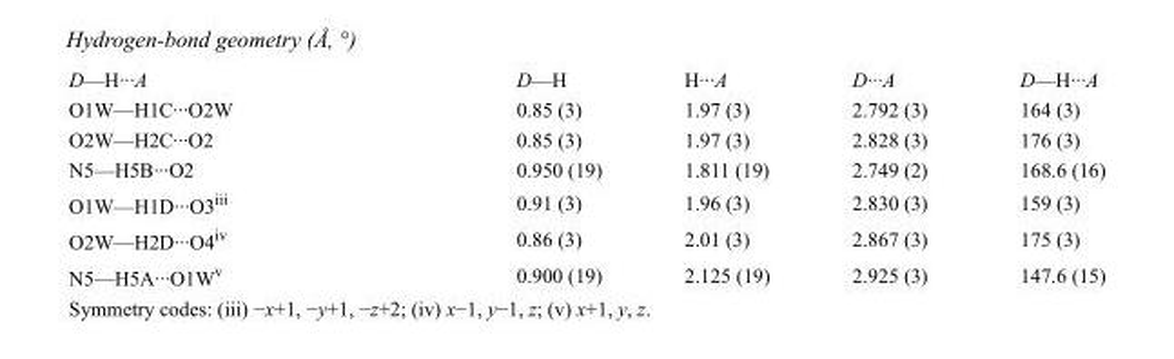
<table><tbody><tr><td>D—H···A</td><td>D—H</td><td>H···A</td><td>D···A</td><td>D—H···A</td></tr><tr><td>O1W—H1C···O2W</td><td>0.85 (3)</td><td>1.97 (3)</td><td>2.792 (3)</td><td>164 (3)</td></tr><tr><td>O2W—H2C···O2</td><td>0.85 (3)</td><td>1.97 (3)</td><td>2.828 (3)</td><td>176 (3)</td></tr><tr><td>N5—H5B···O2</td><td>0.950 (19)</td><td>1.811 (19)</td><td>2.749 (2)</td><td>168.6 (16)</td></tr><tr><td>O1W—H1D···O3<sup>iii</sup></td><td>0.91 (3)</td><td>1.96 (3)</td><td>2.830 (3)</td><td>159 (3)</td></tr><tr><td>O2W—H2D···O4<sup>iv</sup></td><td>0.86 (3)</td><td>2.01 (3)</td><td>2.867 (3)</td><td>175 (3)</td></tr><tr><td>N5—H5A···O1W<sup>v</sup></td><td>0.900 (19)</td><td>2.125 (19)</td><td>2.925 (3)</td><td>147.6 (15)</td></tr></tbody></table>